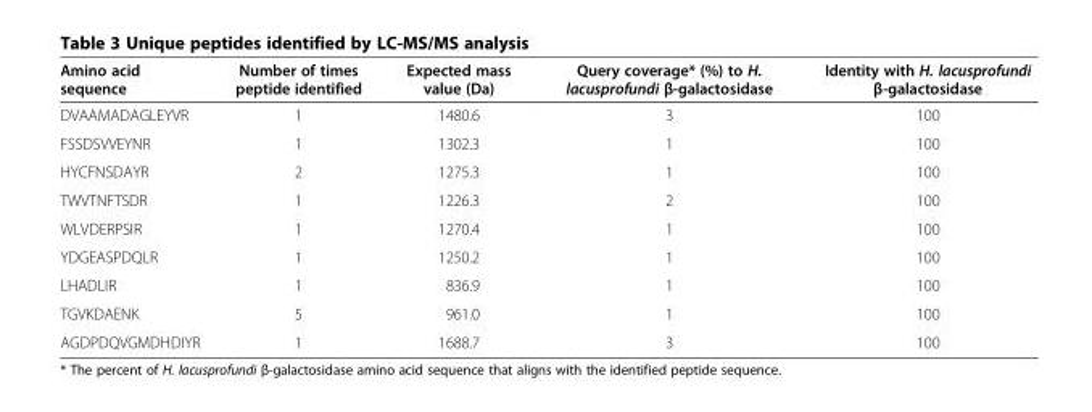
<table><thead><tr><td>Amino acid sequence</td><td>Number of times peptide identified</td><td>Expected mass value (Da)</td><td>Query coverage* (%) to H. lacusprofundi β-galactosidase</td><td>Identity with H. lacusprofundi β-galactosidase</td></tr></thead><tbody><tr><td>DVAAMADAGLEYVR</td><td>1</td><td>1480.6</td><td>3</td><td>100</td></tr><tr><td>FSSDSVVEYNR</td><td>1</td><td>1302.3</td><td>1</td><td>100</td></tr><tr><td>HYCFNSDAYR</td><td>2</td><td>1275.3</td><td>1</td><td>100</td></tr><tr><td>TWVTNFTSDR</td><td>1</td><td>1226.3</td><td>2</td><td>100</td></tr><tr><td>WLVDERPSIR</td><td>1</td><td>1270.4</td><td>1</td><td>100</td></tr><tr><td>YDGEASPDQLR</td><td>1</td><td>1250.2</td><td>1</td><td>100</td></tr><tr><td>LHADLIR</td><td>1</td><td>836.9</td><td>1</td><td>100</td></tr><tr><td>TGVKDAENK</td><td>5</td><td>961.0</td><td>1</td><td>100</td></tr><tr><td>AGDPDQVGMDHDIYR</td><td>1</td><td>1688.7</td><td>3</td><td>100</td></tr></tbody></table>